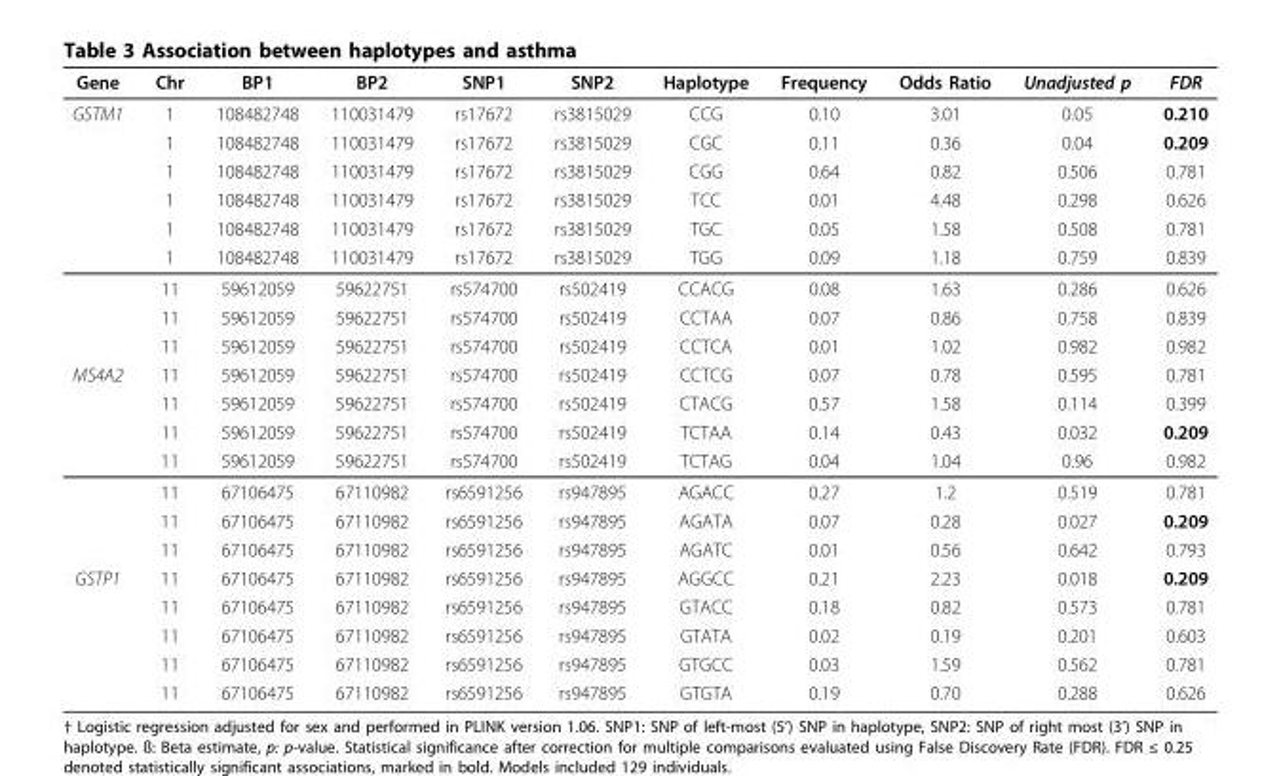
<table><thead><tr><td>Gene</td><td>Chr</td><td>BP1</td><td>BP2</td><td>SNP1</td><td>SNP2</td><td>Haplotype</td><td>Frequency</td><td>Odds Ratio</td><td>Unadjusted p</td><td>FDR</td></tr></thead><tbody><tr><td rowspan="9">GSTM1</td><td>1</td><td>108482748</td><td>110031479</td><td>rs17672</td><td>rs3815029</td><td>CCG</td><td>0.10</td><td>3.01</td><td>0.05</td><td>0.210</td></tr><tr><td>1</td><td>108482748</td><td>110031479</td><td>rs17672</td><td>rs3815029</td><td>CGC</td><td>0.11</td><td>0.36</td><td>0.04</td><td>0.209</td></tr><tr><td>1</td><td>108482748</td><td>110031479</td><td>rs17672</td><td>rs3815029</td><td>CGG</td><td>0.64</td><td>0.82</td><td>0.506</td><td>0.781</td></tr><tr><td>1</td><td>108482748</td><td>110031479</td><td>rs17672</td><td>rs3815029</td><td>TCC</td><td>0.01</td><td>4.48</td><td>0.298</td><td>0.626</td></tr><tr><td>1</td><td>108482748</td><td>110031479</td><td>rs17672</td><td>rs3815029</td><td>TGC</td><td>0.05</td><td>1.58</td><td>0.508</td><td>0.781</td></tr><tr><td>1</td><td>108482748</td><td>110031479</td><td>rs17672</td><td>rs3815029</td><td>TGG</td><td>0.09</td><td>1.18</td><td>0.759</td><td>0.839</td></tr><tr><td>11</td><td>59612059</td><td>59622751</td><td>rs574700</td><td>rs502419</td><td>CCACG</td><td>0.08</td><td>1.63</td><td>0.286</td><td>0.626</td></tr><tr><td>11</td><td>59612059</td><td>59622751</td><td>rs574700</td><td>rs502419</td><td>CCTAA</td><td>0.07</td><td>0.86</td><td>0.758</td><td>0.839</td></tr><tr><td>11</td><td>59612059</td><td>59622751</td><td>rs574700</td><td>rs502419</td><td>CCTCA</td><td>0.01</td><td>1.02</td><td>0.982</td><td>0.982</td></tr><tr><td rowspan="7">MS4A2</td><td>11</td><td>59612059</td><td>59622751</td><td>rs574700</td><td>rs502419</td><td>CCTCG</td><td>0.07</td><td>0.78</td><td>0.595</td><td>0.781</td></tr><tr><td>11</td><td>59612059</td><td>59622751</td><td>rs574700</td><td>rs502419</td><td>CTACG</td><td>0.57</td><td>1.58</td><td>0.114</td><td>0.399</td></tr><tr><td>11</td><td>59612059</td><td>59622751</td><td>rs574700</td><td>rs502419</td><td>TCTAA</td><td>0.14</td><td>0.43</td><td>0.032</td><td>0.209</td></tr><tr><td>11</td><td>59612059</td><td>59622751</td><td>rs574700</td><td>rs502419</td><td>TCTAG</td><td>0.04</td><td>1.04</td><td>0.96</td><td>0.982</td></tr><tr><td>11</td><td>67106475</td><td>67110982</td><td>rs6591256</td><td>rs947895</td><td>AGACC</td><td>0.27</td><td>1.2</td><td>0.519</td><td>0.781</td></tr><tr><td>11</td><td>67106475</td><td>67110982</td><td>rs6591256</td><td>rs947895</td><td>AGATA</td><td>0.07</td><td>0.28</td><td>0.027</td><td>0.209</td></tr><tr><td>11</td><td>67106475</td><td>67110982</td><td>rs6591256</td><td>rs947895</td><td>AGATC</td><td>0.01</td><td>0.56</td><td>0.642</td><td>0.793</td></tr><tr><td rowspan="5">GSTP1</td><td>11</td><td>67106475</td><td>67110982</td><td>rs6591256</td><td>rs947895</td><td>AGGCC</td><td>0.21</td><td>2.23</td><td>0.018</td><td>0.209</td></tr><tr><td>11</td><td>67106475</td><td>67110982</td><td>rs6591256</td><td>rs947895</td><td>GTACC</td><td>0.18</td><td>0.82</td><td>0.573</td><td>0.781</td></tr><tr><td>11</td><td>67106475</td><td>67110982</td><td>rs6591256</td><td>rs947895</td><td>GTATA</td><td>0.02</td><td>0.19</td><td>0.201</td><td>0.603</td></tr><tr><td>11</td><td>67106475</td><td>67110982</td><td>rs6591256</td><td>rs947895</td><td>GTGCC</td><td>0.03</td><td>1.59</td><td>0.562</td><td>0.781</td></tr><tr><td>11</td><td>67106475</td><td>67110982</td><td>rs6591256</td><td>rs947895</td><td>GTGTA</td><td>0.19</td><td>0.70</td><td>0.288</td><td>0.626</td></tr></tbody></table>